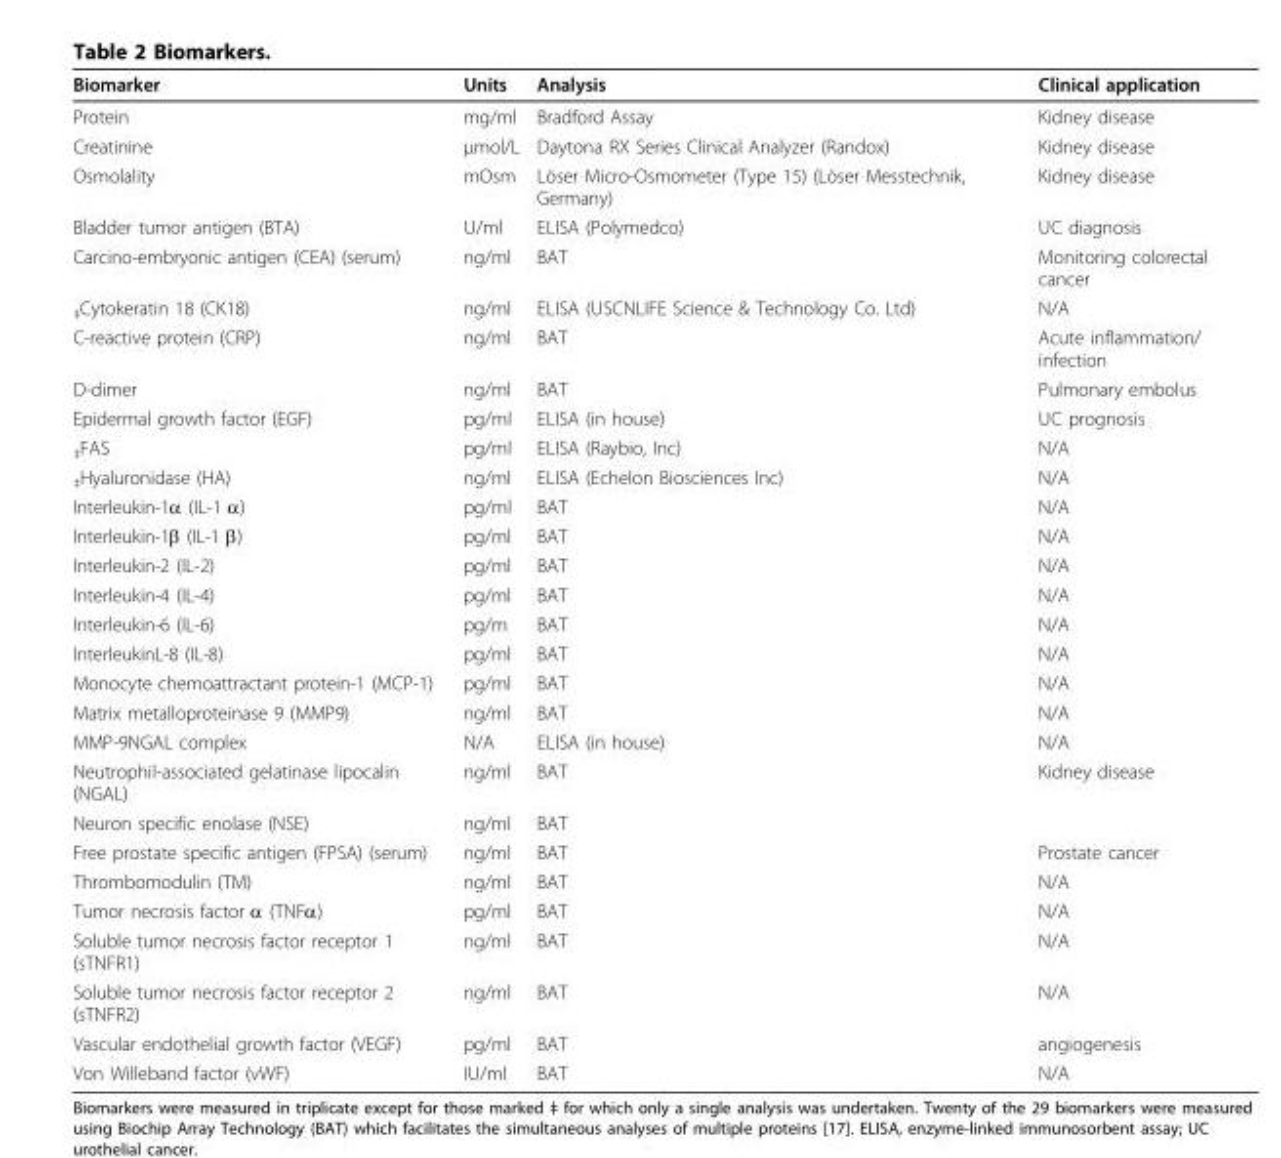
<table><thead><tr><td>Biomarker</td><td>Units</td><td>Analysis</td><td>Clinical application</td></tr></thead><tbody><tr><td>Protein</td><td>mg/ml</td><td>Bradford Assay</td><td>Kidney disease</td></tr><tr><td>Creatinine</td><td>µmol/L</td><td>Daytona RX Series Clinical Analyzer (Randox)</td><td>Kidney disease</td></tr><tr><td>Osmolality</td><td>mOsm</td><td>Löser Micro-Osmometer (Type 15) (Löser Messtechnik, Germany)</td><td>Kidney disease</td></tr><tr><td>Bladder tumor antigen (BTA)</td><td>U/ml</td><td>ELISA (Polymedco)</td><td>UC diagnosis</td></tr><tr><td>Carcino-embryonic antigen (CEA) (serum)</td><td>ng/ml</td><td>BAT</td><td>Monitoring colorectal cancer</td></tr><tr><td><sub>‡</sub>Cytokeratin 18 (CK18)</td><td>ng/ml</td><td>ELISA (USCNLIFE Science &amp; Technology Co. Ltd)</td><td>N/A</td></tr><tr><td>C-reactive protein (CRP)</td><td>ng/ml</td><td>BAT</td><td>Acute inflammation/ infection</td></tr><tr><td>D-dimer</td><td>ng/ml</td><td>BAT</td><td>Pulmonary embolus</td></tr><tr><td>Epidermal growth factor (EGF)</td><td>pg/ml</td><td>ELISA (in house)</td><td>UC prognosis</td></tr><tr><td><sub>‡</sub>FAS</td><td>pg/ml</td><td>ELISA (Raybio, Inc)</td><td>N/A</td></tr><tr><td><sub>‡</sub>Hyaluronidase (HA)</td><td>ng/ml</td><td>ELISA (Echelon Biosciences Inc)</td><td>N/A</td></tr><tr><td>Interleukin-1α (IL-1 α)</td><td>pg/ml</td><td>BAT</td><td>N/A</td></tr><tr><td>Interleukin-1β (IL-1 β)</td><td>pg/ml</td><td>BAT</td><td>N/A</td></tr><tr><td>Interleukin-2 (IL-2)</td><td>pg/ml</td><td>BAT</td><td>N/A</td></tr><tr><td>Interleukin-4 (IL-4)</td><td>pg/ml</td><td>BAT</td><td>N/A</td></tr><tr><td>Interleukin-6 (IL-6)</td><td>pg/m</td><td>BAT</td><td>N/A</td></tr><tr><td>InterleukinL-8 (IL-8)</td><td>pg/ml</td><td>BAT</td><td>N/A</td></tr><tr><td>Monocyte chemoattractant protein-1 (MCP-1)</td><td>pg/ml</td><td>BAT</td><td>N/A</td></tr><tr><td>Matrix metalloproteinase 9 (MMP9)</td><td>ng/ml</td><td>BAT</td><td>N/A</td></tr><tr><td>MMP-9NGAL complex</td><td>N/A</td><td>ELISA (in house)</td><td>N/A</td></tr><tr><td>Neutrophil-associated gelatinase lipocalin (NGAL)</td><td>ng/ml</td><td>BAT</td><td>Kidney disease</td></tr><tr><td>Neuron specific enolase (NSE)</td><td>ng/ml</td><td>BAT</td><td></td></tr><tr><td>Free prostate specific antigen (FPSA) (serum)</td><td>ng/ml</td><td>BAT</td><td>Prostate cancer</td></tr><tr><td>Thrombomodulin (TM)</td><td>ng/ml</td><td>BAT</td><td>N/A</td></tr><tr><td>Tumor necrosis factor α (TNFα)</td><td>pg/ml</td><td>BAT</td><td>N/A</td></tr><tr><td>Soluble tumor necrosis factor receptor 1 (sTNFR1)</td><td>ng/ml</td><td>BAT</td><td>N/A</td></tr><tr><td>Soluble tumor necrosis factor receptor 2 (sTNFR2)</td><td>ng/ml</td><td>BAT</td><td>N/A</td></tr><tr><td>Vascular endothelial growth factor (VEGF)</td><td>pg/ml</td><td>BAT</td><td>angiogenesis</td></tr><tr><td>Von Willeband factor (vWF)</td><td>IU/ml</td><td>BAT</td><td>N/A</td></tr></tbody></table>